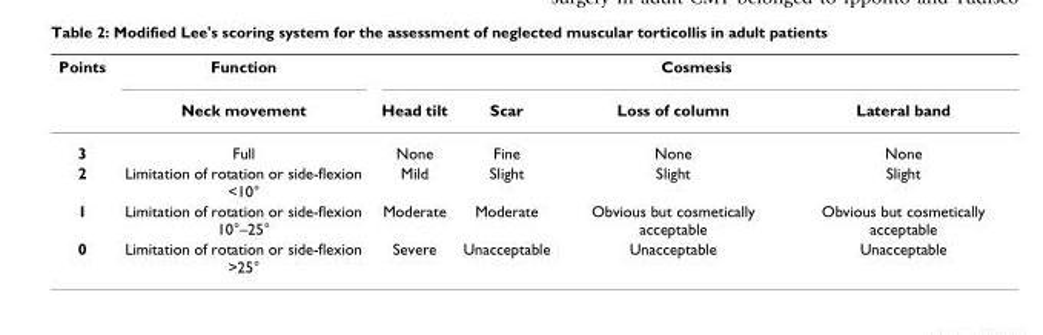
<table><thead><tr><td rowspan="2">Points</td><td rowspan="2">Function Neck movement</td><td colspan="4">Cosmesis</td></tr><tr><td>Head tilt</td><td>Scar</td><td>Loss of column</td><td>Lateral band</td></tr></thead><tbody><tr><td>3</td><td>Full</td><td>None</td><td>Fine</td><td>None</td><td>None</td></tr><tr><td>2</td><td>Limitation of rotation or side-flexion &lt;10°</td><td>Mild</td><td>Slight</td><td>Slight</td><td>Slight</td></tr><tr><td>1</td><td>Limitation of rotation or side-flexion 10°–25°</td><td>Moderate</td><td>Moderate</td><td>Obvious but cosmetically acceptable</td><td>Obvious but cosmetically acceptable</td></tr><tr><td>0</td><td>Limitation of rotation or side-flexion &gt;25°</td><td>Severe</td><td>Unacceptable</td><td>Unacceptable</td><td>Unacceptable</td></tr></tbody></table>